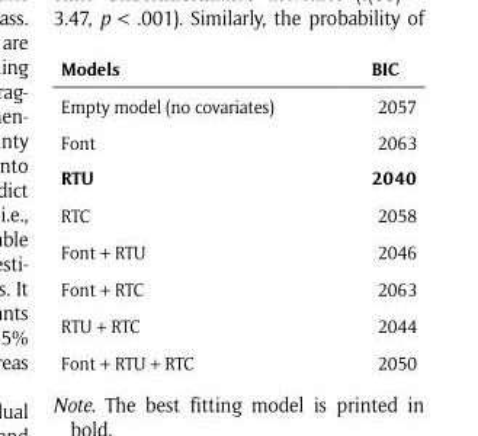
<table><thead><tr><td>Models</td><td>BIC</td></tr></thead><tbody><tr><td>Empty model (no covariates)</td><td>2057</td></tr><tr><td>Font</td><td>2063</td></tr><tr><td>RTU</td><td>2040</td></tr><tr><td>RTC</td><td>2058</td></tr><tr><td>Font + RTU</td><td>2046</td></tr><tr><td>Font + RTC</td><td>2063</td></tr><tr><td>RTU + RTC</td><td>2044</td></tr><tr><td>Font + RTU + RTC</td><td>2050</td></tr></tbody></table>